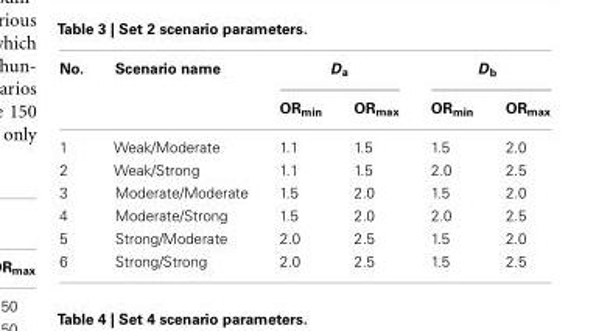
<table><thead><tr><td rowspan="2">No.</td><td rowspan="2">Scenario name</td><td colspan="2">D<sub>a</sub></td><td colspan="2">D<sub>b</sub></td></tr><tr><td>OR<sub>min</sub></td><td>OR<sub>max</sub></td><td>OR<sub>min</sub></td><td>OR<sub>max</sub></td></tr></thead><tbody><tr><td>1</td><td>Weak/Moderate</td><td>1.1</td><td>1.5</td><td>1.5</td><td>2.0</td></tr><tr><td>2</td><td>Weak/Strong</td><td>1.1</td><td>1.5</td><td>2.0</td><td>2.5</td></tr><tr><td>3</td><td>Moderate/Moderate</td><td>1.5</td><td>2.0</td><td>1.5</td><td>2.0</td></tr><tr><td>4</td><td>Moderate/Strong</td><td>1.5</td><td>2.0</td><td>2.0</td><td>2.5</td></tr><tr><td>5</td><td>Strong/Moderate</td><td>2.0</td><td>2.5</td><td>1.5</td><td>2.0</td></tr><tr><td>6</td><td>Strong/Strong</td><td>2.0</td><td>2.5</td><td>1.5</td><td>2.5</td></tr></tbody></table>